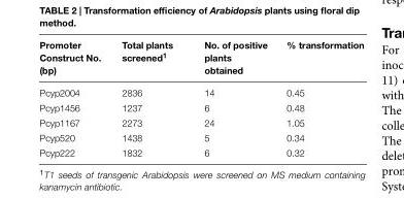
<table><thead><tr><td>Promoter Construct No. (bp)</td><td>Total plants screened<sup>1</sup></td><td>No. of positive plants obtained</td><td>% transformation</td></tr></thead><tbody><tr><td>Pcyp2004</td><td>2836</td><td>14</td><td>0.45</td></tr><tr><td>Pcyp1456</td><td>1237</td><td>6</td><td>0.48</td></tr><tr><td>Pcyp1167</td><td>2273</td><td>24</td><td>1.05</td></tr><tr><td>Pcyp520</td><td>1438</td><td>5</td><td>0.34</td></tr><tr><td>Pcyp222</td><td>1832</td><td>6</td><td>0.32</td></tr></tbody></table>